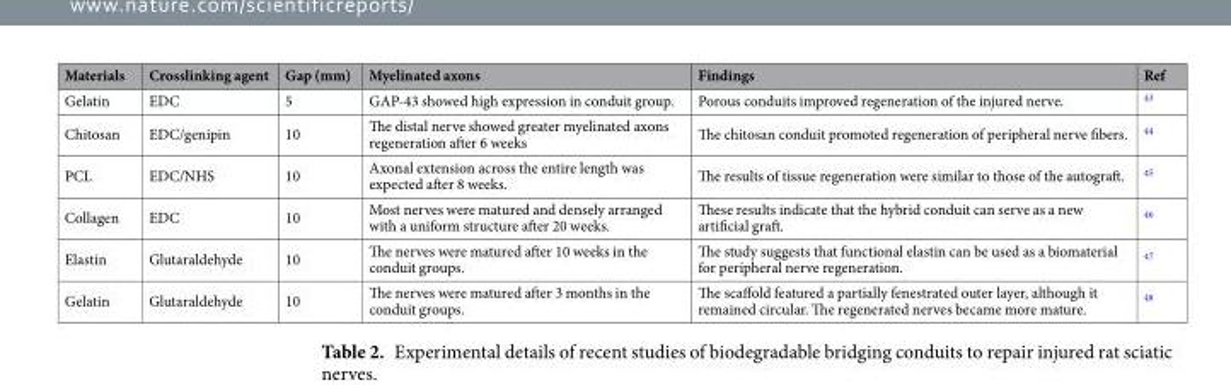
<table><thead><tr><td>Materials</td><td>Crosslinking agent</td><td>Gap (mm)</td><td>Myelinated axons</td><td>Findings</td><td>Ref</td></tr></thead><tbody><tr><td>Gelatin</td><td>EDC</td><td>5</td><td>GAP-43 showed high expression in conduit group.</td><td>Porous conduits improved regeneration of the injured nerve.</td><td><sup>43</sup></td></tr><tr><td>Chitosan</td><td>EDC/genipin</td><td>10</td><td>The distal nerve showed greater myelinated axons regeneration after 6 weeks</td><td>The chitosan conduit promoted regeneration of peripheral nerve fibers.</td><td><sup>44</sup></td></tr><tr><td>PCL</td><td>EDC/NHS</td><td>10</td><td>Axonal extension across the entire length was expected after 8 weeks.</td><td>The results of tissue regeneration were similar to those of the autograft.</td><td><sup>45</sup></td></tr><tr><td>Collagen</td><td>EDC</td><td>10</td><td>Most nerves were matured and densely arranged with a uniform structure after 20 weeks.</td><td>These results indicate that the hybrid conduit can serve as a new artificial graft.</td><td><sup>46</sup></td></tr><tr><td>Elastin</td><td>Glutaraldehyde</td><td>10</td><td>The nerves were matured after 10 weeks in the conduit groups.</td><td>The study suggests that functional elastin can be used as a biomaterial for peripheral nerve regeneration.</td><td><sup>47</sup></td></tr><tr><td>Gelatin</td><td>Glutaraldehyde</td><td>10</td><td>The nerves were matured after 3 months in the conduit groups.</td><td>The scaffold featured a partially fenestrated outer layer, although it remained circular. The regenerated nerves became more mature.</td><td><sup>48</sup></td></tr></tbody></table>